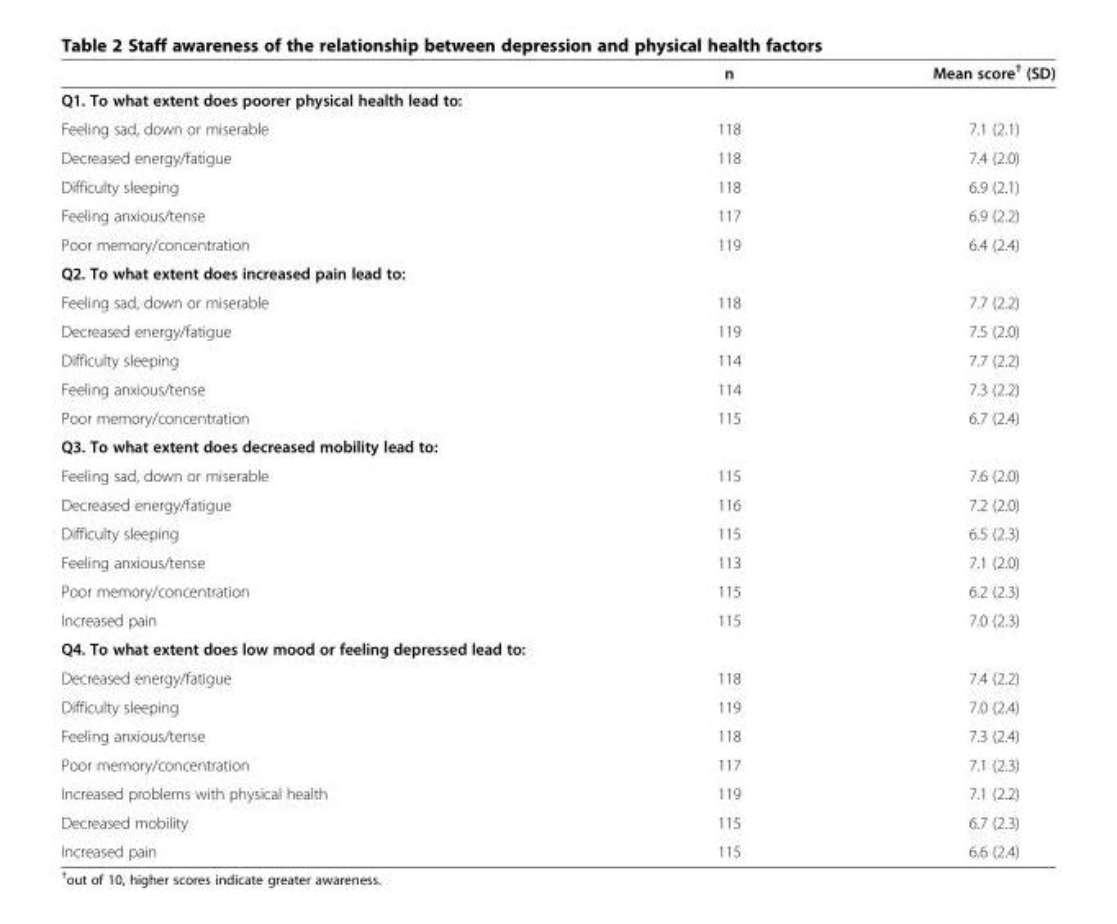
<table><thead><tr><td></td><td>n</td><td>Mean score<sup>†</sup> (SD)</td></tr></thead><tbody><tr><td colspan="3">Q1. To what extent does poorer physical health lead to:</td></tr><tr><td>Feeling sad, down or miserable</td><td>118</td><td>7.1 (2.1)</td></tr><tr><td>Decreased energy/fatigue</td><td>118</td><td>7.4 (2.0)</td></tr><tr><td>Difficulty sleeping</td><td>118</td><td>6.9 (2.1)</td></tr><tr><td>Feeling anxious/tense</td><td>117</td><td>6.9 (2.2)</td></tr><tr><td>Poor memory/concentration</td><td>119</td><td>6.4 (2.4)</td></tr><tr><td colspan="3">Q2. To what extent does increased pain lead to:</td></tr><tr><td>Feeling sad, down or miserable</td><td>118</td><td>7.7 (2.2)</td></tr><tr><td>Decreased energy/fatigue</td><td>119</td><td>7.5 (2.0)</td></tr><tr><td>Difficulty sleeping</td><td>114</td><td>7.7 (2.2)</td></tr><tr><td>Feeling anxious/tense</td><td>114</td><td>7.3 (2.2)</td></tr><tr><td>Poor memory/concentration</td><td>115</td><td>6.7 (2.4)</td></tr><tr><td colspan="3">Q3. To what extent does decreased mobility lead to:</td></tr><tr><td>Feeling sad, down or miserable</td><td>115</td><td>7.6 (2.0)</td></tr><tr><td>Decreased energy/fatigue</td><td>116</td><td>7.2 (2.0)</td></tr><tr><td>Difficulty sleeping</td><td>115</td><td>6.5 (2.3)</td></tr><tr><td>Feeling anxious/tense</td><td>113</td><td>7.1 (2.0)</td></tr><tr><td>Poor memory/concentration</td><td>115</td><td>6.2 (2.3)</td></tr><tr><td>Increased pain</td><td>115</td><td>7.0 (2.3)</td></tr><tr><td colspan="3">Q4. To what extent does low mood or feeling depressed lead to:</td></tr><tr><td>Decreased energy/fatigue</td><td>118</td><td>7.4 (2.2)</td></tr><tr><td>Difficulty sleeping</td><td>119</td><td>7.0 (2.4)</td></tr><tr><td>Feeling anxious/tense</td><td>118</td><td>7.3 (2.4)</td></tr><tr><td>Poor memory/concentration</td><td>117</td><td>7.1 (2.3)</td></tr><tr><td>Increased problems with physical health</td><td>119</td><td>7.1 (2.2)</td></tr><tr><td>Decreased mobility</td><td>115</td><td>6.7 (2.3)</td></tr><tr><td>Increased pain</td><td>115</td><td>6.6 (2.4)</td></tr></tbody></table>